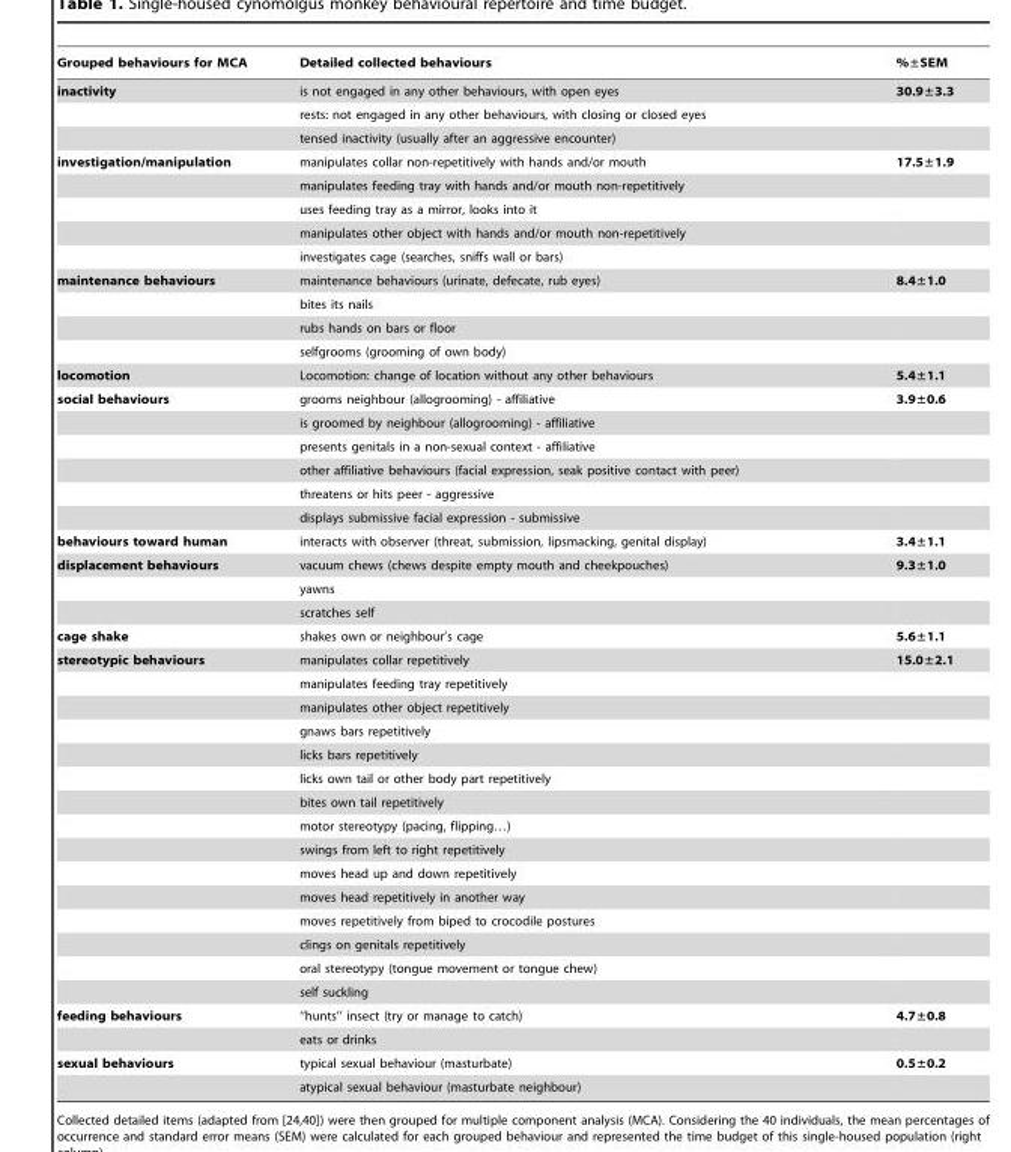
<table><thead><tr><td>Grouped behaviours for MCA</td><td>Detailed collected behaviours</td><td>%±SEM</td></tr></thead><tbody><tr><td rowspan="3">inactivity</td><td>is not engaged in any other behaviours, with open eyes</td><td>30.9±3.3</td></tr><tr><td>rests: not engaged in any other behaviours, with closing or closed eyes</td><td></td></tr><tr><td>tensed inactivity (usually after an aggressive encounter)</td><td></td></tr><tr><td rowspan="5">investigation/manipulation</td><td>manipulates collar non-repetitively with hands and/or mouth</td><td>17.5±1.9</td></tr><tr><td>manipulates feeding tray with hands and/or mouth non-repetitively</td><td></td></tr><tr><td>uses feeding tray as a mirror, looks into it</td><td></td></tr><tr><td>manipulates other object with hands and/or mouth non-repetitively</td><td></td></tr><tr><td>investigates cage (searches, sniffs wall or bars)</td><td></td></tr><tr><td rowspan="4">maintenance behaviours</td><td>maintenance behaviours (urinate, defecate, rub eyes)</td><td>8.4±1.0</td></tr><tr><td>bites its nails</td><td></td></tr><tr><td>rubs hands on bars or floor</td><td></td></tr><tr><td>selfgrooms (grooming of own body)</td><td></td></tr><tr><td>locomotion</td><td>Locomotion: change of location without any other behaviours</td><td>5.4±1.1</td></tr><tr><td rowspan="6">social behaviours</td><td>grooms neighbour (allogrooming) - affiliative</td><td>3.9±0.6</td></tr><tr><td>is groomed by neighbour (allogrooming) - affiliative</td><td></td></tr><tr><td>presents genitals in a non-sexual context - affiliative</td><td></td></tr><tr><td>other affiliative behaviours (facial expression, seak positive contact with peer)</td><td></td></tr><tr><td>threatens or hits peer - aggressive</td><td></td></tr><tr><td>displays submissive facial expression - submissive</td><td></td></tr><tr><td>behaviours toward human</td><td>interacts with observer (threat, submission, lipsmacking, genital display)</td><td>3.4±1.1</td></tr><tr><td rowspan="3">displacement behaviours</td><td>vacuum chews (chews despite empty mouth and cheekpouches)</td><td>9.3±1.0</td></tr><tr><td>yawns</td><td></td></tr><tr><td>scratches self</td><td></td></tr><tr><td>cage shake</td><td>shakes own or neighbour’s cage</td><td>5.6±1.1</td></tr><tr><td rowspan="15">stereotypic behaviours</td><td>manipulates collar repetitively</td><td>15.0±2.1</td></tr><tr><td>manipulates feeding tray repetitively</td><td></td></tr><tr><td>manipulates other object repetitively</td><td></td></tr><tr><td>gnaws bars repetitively</td><td></td></tr><tr><td>licks bars repetitively</td><td></td></tr><tr><td>licks own tail or other body part repetitively</td><td></td></tr><tr><td>bites own tail repetitively</td><td></td></tr><tr><td>motor stereotypy (pacing, flipping…)</td><td></td></tr><tr><td>swings from left to right repetitively</td><td></td></tr><tr><td>moves head up and down repetitively</td><td></td></tr><tr><td>moves head repetitively in another way</td><td></td></tr><tr><td>moves repetitively from biped to crocodile postures</td><td></td></tr><tr><td>clings on genitals repetitively</td><td></td></tr><tr><td>oral stereotypy (tongue movement or tongue chew)</td><td></td></tr><tr><td>self suckling</td><td></td></tr><tr><td rowspan="2">feeding behaviours</td><td>‘‘hunts’’ insect (try or manage to catch)</td><td>4.7±0.8</td></tr><tr><td>eats or drinks</td><td></td></tr><tr><td rowspan="2">sexual behaviours</td><td>typical sexual behaviour (masturbate)</td><td>0.5±0.2</td></tr><tr><td>atypical sexual behaviour (masturbate neighbour)</td><td></td></tr></tbody></table>